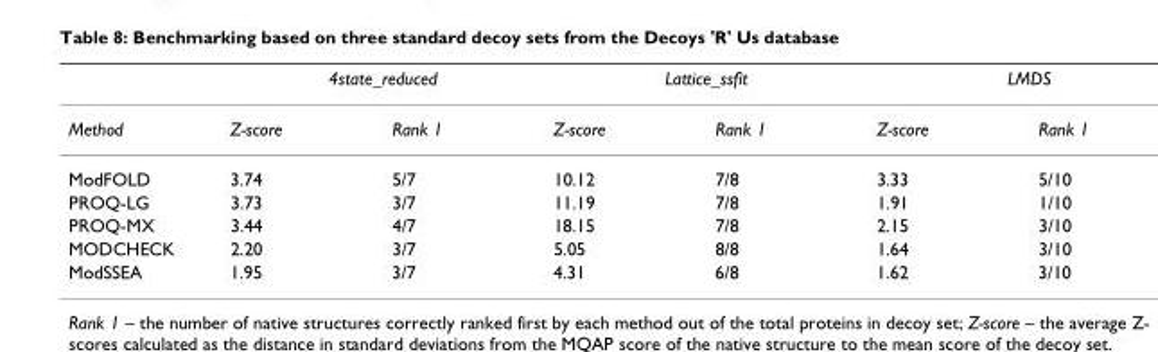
<table><thead><tr><td rowspan="2">Method</td><td colspan="2">4state_reduced</td><td colspan="2">Lattice_ssfit</td><td colspan="2">LMDS</td></tr><tr><td>Z-score</td><td>Rank 1</td><td>Z-score</td><td>Rank 1</td><td>Z-score</td><td>Rank 1</td></tr></thead><tbody><tr><td>ModFOLD</td><td>3.74</td><td>5/7</td><td>10.12</td><td>7/8</td><td>3.33</td><td>5/10</td></tr><tr><td>PROQ-LG</td><td>3.73</td><td>3/7</td><td>11.19</td><td>7/8</td><td>1.91</td><td>1/10</td></tr><tr><td>PROQ-MX</td><td>3.44</td><td>4/7</td><td>18.15</td><td>7/8</td><td>2.15</td><td>3/10</td></tr><tr><td>MODCHECK</td><td>2.20</td><td>3/7</td><td>5.05</td><td>8/8</td><td>1.64</td><td>3/10</td></tr><tr><td>ModSSEA</td><td>1.95</td><td>3/7</td><td>4.31</td><td>6/8</td><td>1.62</td><td>3/10</td></tr></tbody></table>